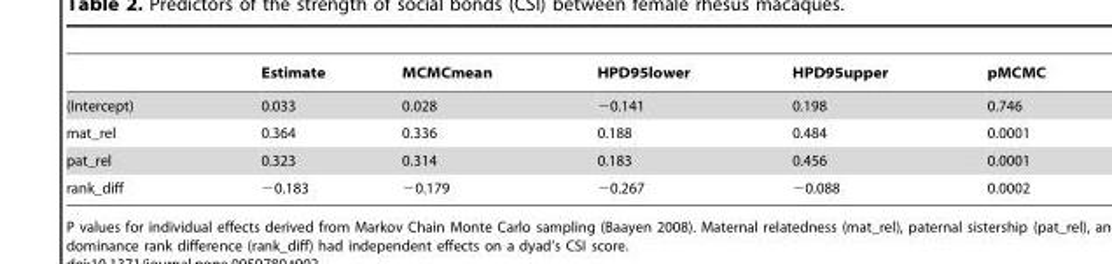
<table><thead><tr><td></td><td>Estimate</td><td>MCMCmean</td><td>HPD95lower</td><td>HPD95upper</td><td>pMCMC</td></tr></thead><tbody><tr><td>(Intercept)</td><td>0.033</td><td>0.028</td><td>−0.141</td><td>0.198</td><td>0.746</td></tr><tr><td>mat_rel</td><td>0.364</td><td>0.336</td><td>0.188</td><td>0.484</td><td>0.0001</td></tr><tr><td>pat_rel</td><td>0.323</td><td>0.314</td><td>0.183</td><td>0.456</td><td>0.0001</td></tr><tr><td>rank_diff</td><td>−0.183</td><td>−0.179</td><td>−0.267</td><td>−0.088</td><td>0.0002</td></tr></tbody></table>